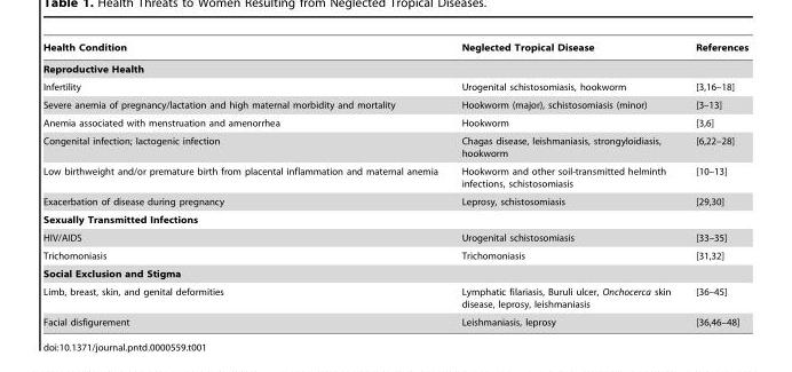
<table><thead><tr><td>Health Condition</td><td>Neglected Tropical Disease</td><td>References</td></tr></thead><tbody><tr><td colspan="3">Reproductive Health</td></tr><tr><td>Infertility</td><td>Urogenital schistosomiasis, hookworm</td><td>[3,16–18]</td></tr><tr><td>Severe anemia of pregnancy/lactation and high maternal morbidity and mortality</td><td>Hookworm (major), schistosomiasis (minor)</td><td>[3–13]</td></tr><tr><td>Anemia associated with menstruation and amenorrhea</td><td>Hookworm</td><td>[3,6]</td></tr><tr><td>Congenital infection; lactogenic infection</td><td>Chagas disease, leishmaniasis, strongyloidiasis, hookworm</td><td>[6,22–28]</td></tr><tr><td>Low birthweight and/or premature birth from placental inflammation and maternal anemia</td><td>Hookworm and other soil-transmitted helminth infections, schistosomiasis</td><td>[10–13]</td></tr><tr><td>Exacerbation of disease during pregnancy</td><td>Leprosy, schistosomiasis</td><td>[29,30]</td></tr><tr><td colspan="3">Sexually Transmitted Infections</td></tr><tr><td>HIV/AIDS</td><td>Urogenital schistosomiasis</td><td>[33–35]</td></tr><tr><td>Trichomoniasis</td><td>Trichomoniasis</td><td>[31,32]</td></tr><tr><td colspan="3">Social Exclusion and Stigma</td></tr><tr><td>Limb, breast, skin, and genital deformities</td><td>Lymphatic filariasis, Buruli ulcer, Onchocerca skin disease, leprosy, leishmaniasis</td><td>[36–45]</td></tr><tr><td>Facial disfigurement</td><td>Leishmaniasis, leprosy</td><td>[36,46–48]</td></tr></tbody></table>